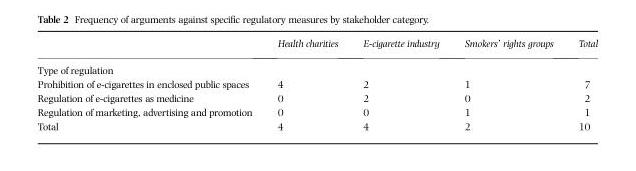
<table><thead><tr><td></td><td>Health charities</td><td>E-cigarette industry</td><td>Smokers’ rights groups</td><td>Total</td></tr></thead><tbody><tr><td colspan="5">Type of regulation</td></tr><tr><td>Prohibition of e-cigarettes in enclosed public spaces</td><td>4</td><td>2</td><td>1</td><td>7</td></tr><tr><td>Regulation of e-cigarettes as medicine</td><td>0</td><td>2</td><td>0</td><td>2</td></tr><tr><td>Regulation of marketing, advertising and promotion</td><td>0</td><td>0</td><td>1</td><td>1</td></tr><tr><td>Total</td><td>4</td><td>4</td><td>2</td><td>10</td></tr></tbody></table>